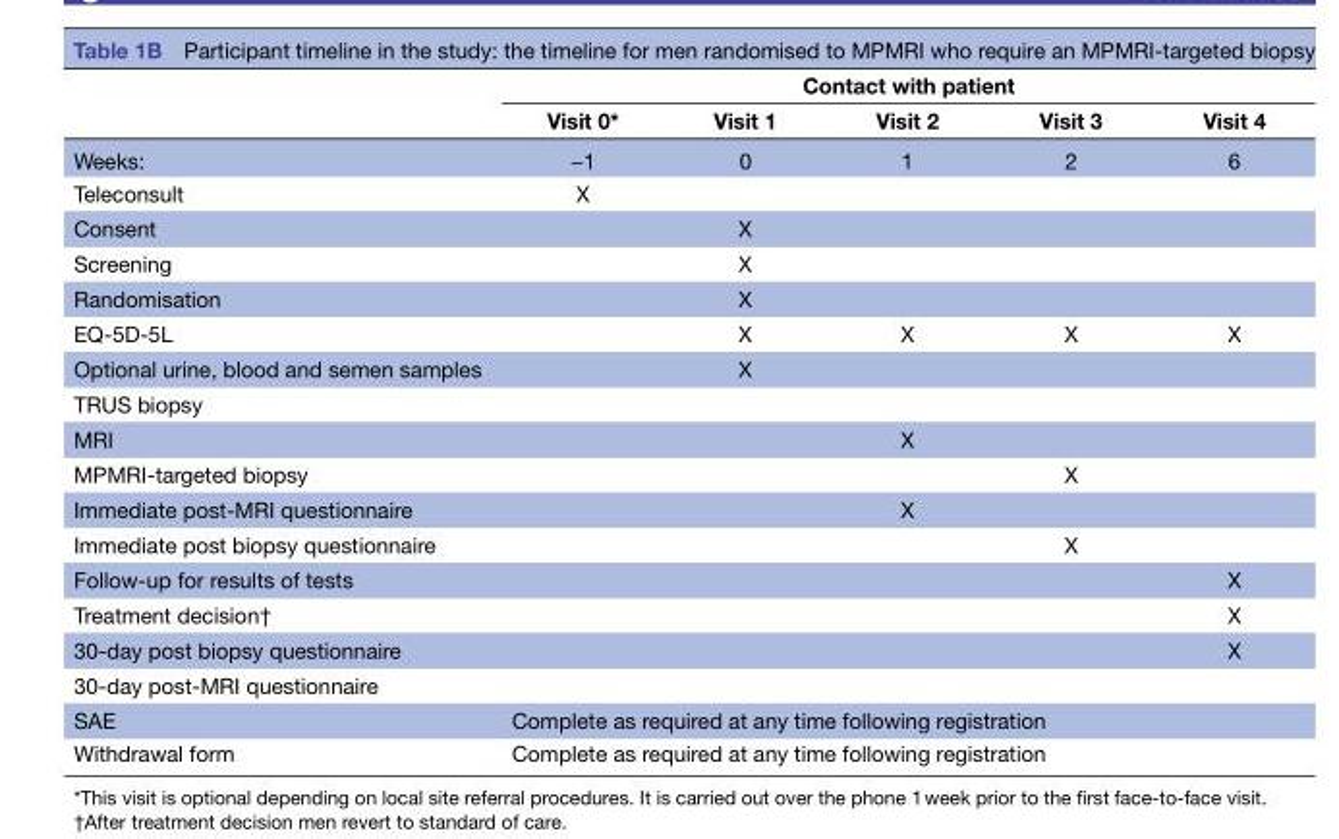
<table><thead><tr><td rowspan="2"></td><td colspan="5">Contact with patient</td></tr><tr><td>Visit 0*</td><td>Visit 1</td><td>Visit 2</td><td>Visit 3</td><td>Visit 4</td></tr></thead><tbody><tr><td>Weeks:</td><td>−1</td><td>0</td><td>1</td><td>2</td><td>6</td></tr><tr><td>Teleconsult</td><td>X</td><td></td><td></td><td></td><td></td></tr><tr><td>Consent</td><td></td><td>X</td><td></td><td></td><td></td></tr><tr><td>Screening</td><td></td><td>X</td><td></td><td></td><td></td></tr><tr><td>Randomisation</td><td></td><td>X</td><td></td><td></td><td></td></tr><tr><td>EQ-5D-5L</td><td></td><td>X</td><td>X</td><td>X</td><td>X</td></tr><tr><td>Optional urine, blood and semen samples</td><td></td><td>X</td><td></td><td></td><td></td></tr><tr><td colspan="6">TRUS biopsy</td></tr><tr><td>MRI</td><td></td><td></td><td>X</td><td></td><td></td></tr><tr><td>MPMRI-targeted biopsy</td><td></td><td></td><td></td><td>X</td><td></td></tr><tr><td>Immediate post-MRI questionnaire</td><td></td><td></td><td>X</td><td></td><td></td></tr><tr><td>Immediate post biopsy questionnaire</td><td></td><td></td><td></td><td>X</td><td></td></tr><tr><td>Follow-up for results of tests</td><td></td><td></td><td></td><td></td><td>X</td></tr><tr><td>Treatment decision†</td><td></td><td></td><td></td><td></td><td>X</td></tr><tr><td>30-day post biopsy questionnaire</td><td></td><td></td><td></td><td></td><td>X</td></tr><tr><td colspan="6">30-day post-MRI questionnaire</td></tr><tr><td>SAE</td><td colspan="5">Complete as required at any time following registration</td></tr><tr><td>Withdrawal form</td><td colspan="5">Complete as required at any time following registration</td></tr></tbody></table>